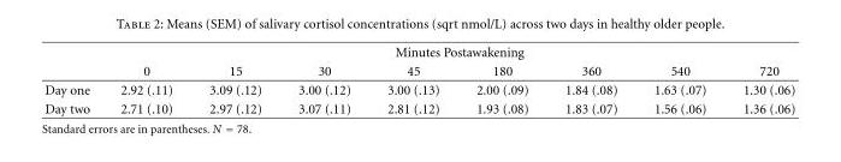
<table><thead><tr><td rowspan="2"></td><td colspan="8">Minutes Postawakening</td></tr><tr><td>0</td><td>15</td><td>30</td><td>45</td><td>180</td><td>360</td><td>540</td><td>720</td></tr></thead><tbody><tr><td>Day one</td><td>2.92 (.11)</td><td>3.09 (.12)</td><td>3.00 (.12)</td><td>3.00 (.13)</td><td>2.00 (.09)</td><td>1.84 (.08)</td><td>1.63 (.07)</td><td>1.30 (.06)</td></tr><tr><td>Day two</td><td>2.71 (.10)</td><td>2.97 (.12)</td><td>3.07 (.11)</td><td>2.81 (.12)</td><td>1.93 (.08)</td><td>1.83 (.07)</td><td>1.56 (.06)</td><td>1.36 (.06)</td></tr></tbody></table>